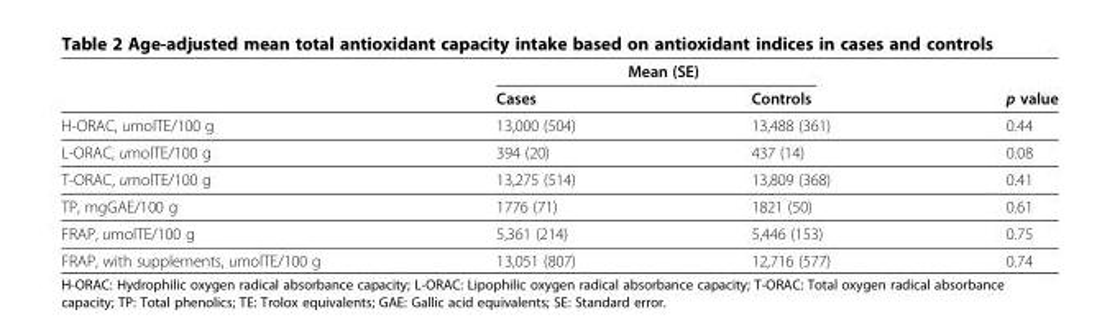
<table><thead><tr><td rowspan="2"></td><td colspan="2">Mean (SE)</td><td rowspan="2">p value</td></tr><tr><td>Cases</td><td>Controls</td></tr></thead><tbody><tr><td>H-ORAC, umolTE/100 g</td><td>13,000 (504)</td><td>13,488 (361)</td><td>0.44</td></tr><tr><td>L-ORAC, umolTE/100 g</td><td>394 (20)</td><td>437 (14)</td><td>0.08</td></tr><tr><td>T-ORAC, umolTE/100 g</td><td>13,275 (514)</td><td>13,809 (368)</td><td>0.41</td></tr><tr><td>TP, mgGAE/100 g</td><td>1776 (71)</td><td>1821 (50)</td><td>0.61</td></tr><tr><td>FRAP, umolTE/100 g</td><td>5,361 (214)</td><td>5,446 (153)</td><td>0.75</td></tr><tr><td>FRAP, with supplements, umolTE/100 g</td><td>13,051 (807)</td><td>12,716 (577)</td><td>0.74</td></tr></tbody></table>